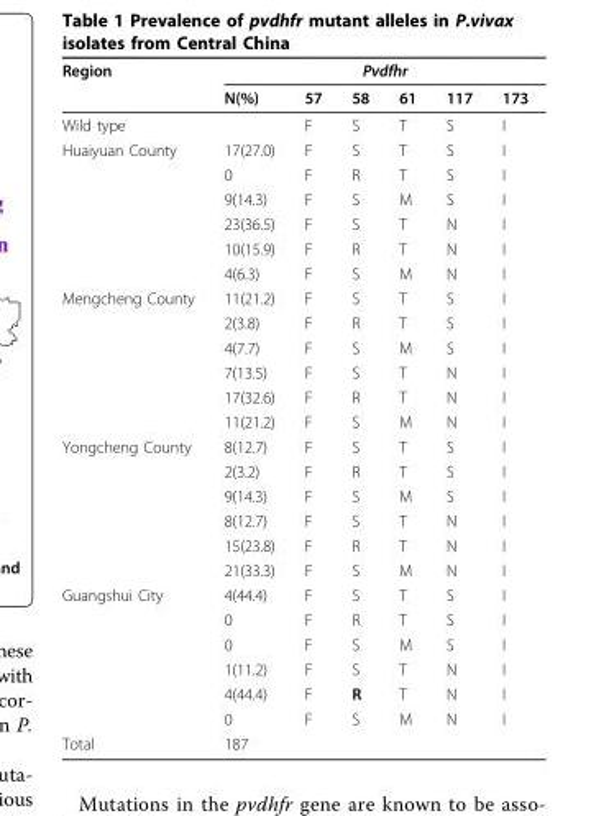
<table><thead><tr><td rowspan="2">Region</td><td colspan="6">Pvdfhr</td></tr><tr><td>N(%)</td><td>57</td><td>58</td><td>61</td><td>117</td><td>173</td></tr></thead><tbody><tr><td>Wild type</td><td></td><td>F</td><td>S</td><td>T</td><td>S</td><td>I</td></tr><tr><td rowspan="6">Huaiyuan County</td><td>17(27.0)</td><td>F</td><td>S</td><td>T</td><td>S</td><td>I</td></tr><tr><td>0</td><td>F</td><td>R</td><td>T</td><td>S</td><td>I</td></tr><tr><td>9(14.3)</td><td>F</td><td>S</td><td>M</td><td>S</td><td>I</td></tr><tr><td>23(36.5)</td><td>F</td><td>S</td><td>T</td><td>N</td><td>I</td></tr><tr><td>10(15.9)</td><td>F</td><td>R</td><td>T</td><td>N</td><td>I</td></tr><tr><td>4(6.3)</td><td>F</td><td>S</td><td>M</td><td>N</td><td>I</td></tr><tr><td rowspan="6">Mengcheng County</td><td>11(21.2)</td><td>F</td><td>S</td><td>T</td><td>S</td><td>I</td></tr><tr><td>2(3.8)</td><td>F</td><td>R</td><td>T</td><td>S</td><td>I</td></tr><tr><td>4(7.7)</td><td>F</td><td>S</td><td>M</td><td>S</td><td>I</td></tr><tr><td>7(13.5)</td><td>F</td><td>S</td><td>T</td><td>N</td><td>I</td></tr><tr><td>17(32.6)</td><td>F</td><td>R</td><td>T</td><td>N</td><td>I</td></tr><tr><td>11(21.2)</td><td>F</td><td>S</td><td>M</td><td>N</td><td>I</td></tr><tr><td rowspan="6">Yongcheng County</td><td>8(12.7)</td><td>F</td><td>S</td><td>T</td><td>S</td><td>I</td></tr><tr><td>2(3.2)</td><td>F</td><td>R</td><td>T</td><td>S</td><td>I</td></tr><tr><td>9(14.3)</td><td>F</td><td>S</td><td>M</td><td>S</td><td>I</td></tr><tr><td>8(12.7)</td><td>F</td><td>S</td><td>T</td><td>N</td><td>I</td></tr><tr><td>15(23.8)</td><td>F</td><td>R</td><td>T</td><td>N</td><td>I</td></tr><tr><td>21(33.3)</td><td>F</td><td>S</td><td>M</td><td>N</td><td>I</td></tr><tr><td rowspan="6">Guangshui City</td><td>4(44.4)</td><td>F</td><td>S</td><td>T</td><td>S</td><td>I</td></tr><tr><td>0</td><td>F</td><td>R</td><td>T</td><td>S</td><td>I</td></tr><tr><td>0</td><td>F</td><td>S</td><td>M</td><td>S</td><td>I</td></tr><tr><td>1(11.2)</td><td>F</td><td>S</td><td>T</td><td>N</td><td>I</td></tr><tr><td>4(44.4)</td><td>F</td><td>R</td><td>T</td><td>N</td><td>I</td></tr><tr><td>0</td><td>F</td><td>S</td><td>M</td><td>N</td><td>I</td></tr><tr><td>Total</td><td>187</td><td></td><td></td><td></td><td></td><td></td></tr></tbody></table>